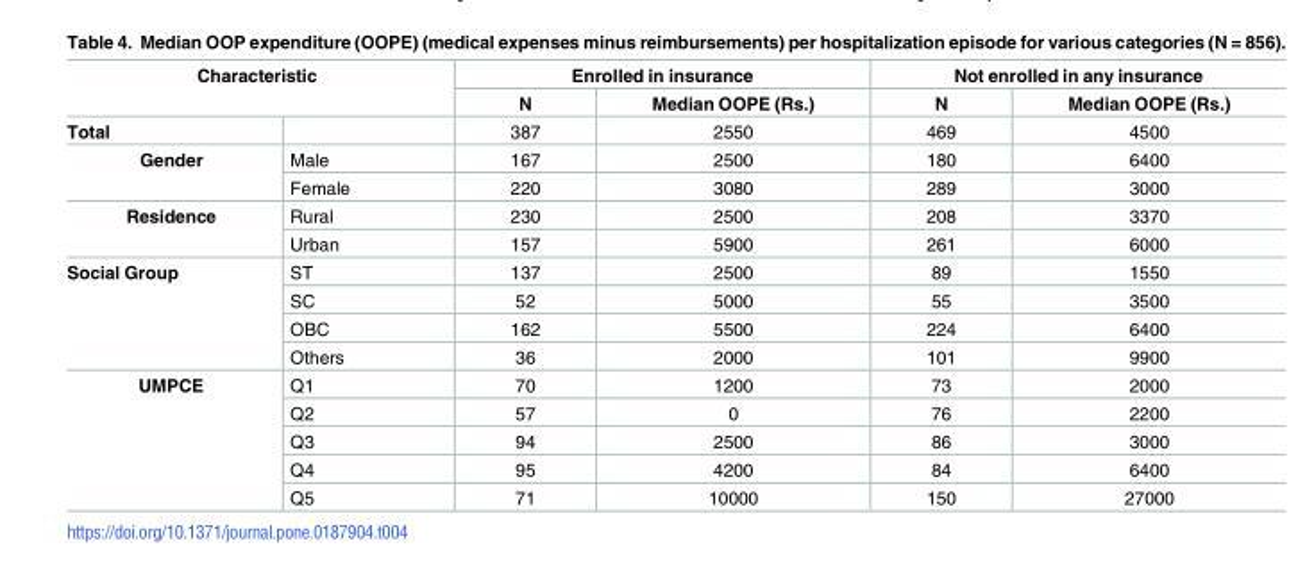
<table><thead><tr><td rowspan="2" colspan="2">Characteristic</td><td colspan="2">Enrolled in insurance</td><td colspan="2">Not enrolled in any insurance</td></tr><tr><td rowspan="2">N 387</td><td rowspan="2">Median OOPE (Rs.) 2550</td><td rowspan="2">N 469</td><td rowspan="2">Median OOPE (Rs.) 4500</td></tr><tr><td>Total</td><td></td></tr></thead><tbody><tr><td rowspan="2">Gender</td><td>Male</td><td>167</td><td>2500</td><td>180</td><td>6400</td></tr><tr><td>Female</td><td>220</td><td>3080</td><td>289</td><td>3000</td></tr><tr><td rowspan="2">Residence</td><td>Rural</td><td>230</td><td>2500</td><td>208</td><td>3370</td></tr><tr><td>Urban</td><td>157</td><td>5900</td><td>261</td><td>6000</td></tr><tr><td rowspan="4">Social Group</td><td>ST</td><td>137</td><td>2500</td><td>89</td><td>1550</td></tr><tr><td>SC</td><td>52</td><td>5000</td><td>55</td><td>3500</td></tr><tr><td>OBC</td><td>162</td><td>5500</td><td>224</td><td>6400</td></tr><tr><td>Others</td><td>36</td><td>2000</td><td>101</td><td>9900</td></tr><tr><td rowspan="5">UMPCE</td><td>Q1</td><td>70</td><td>1200</td><td>73</td><td>2000</td></tr><tr><td>Q2</td><td>57</td><td>0</td><td>76</td><td>2200</td></tr><tr><td>Q3</td><td>94</td><td>2500</td><td>86</td><td>3000</td></tr><tr><td>Q4</td><td>95</td><td>4200</td><td>84</td><td>6400</td></tr><tr><td>Q5</td><td>71</td><td>10000</td><td>150</td><td>27000</td></tr></tbody></table>